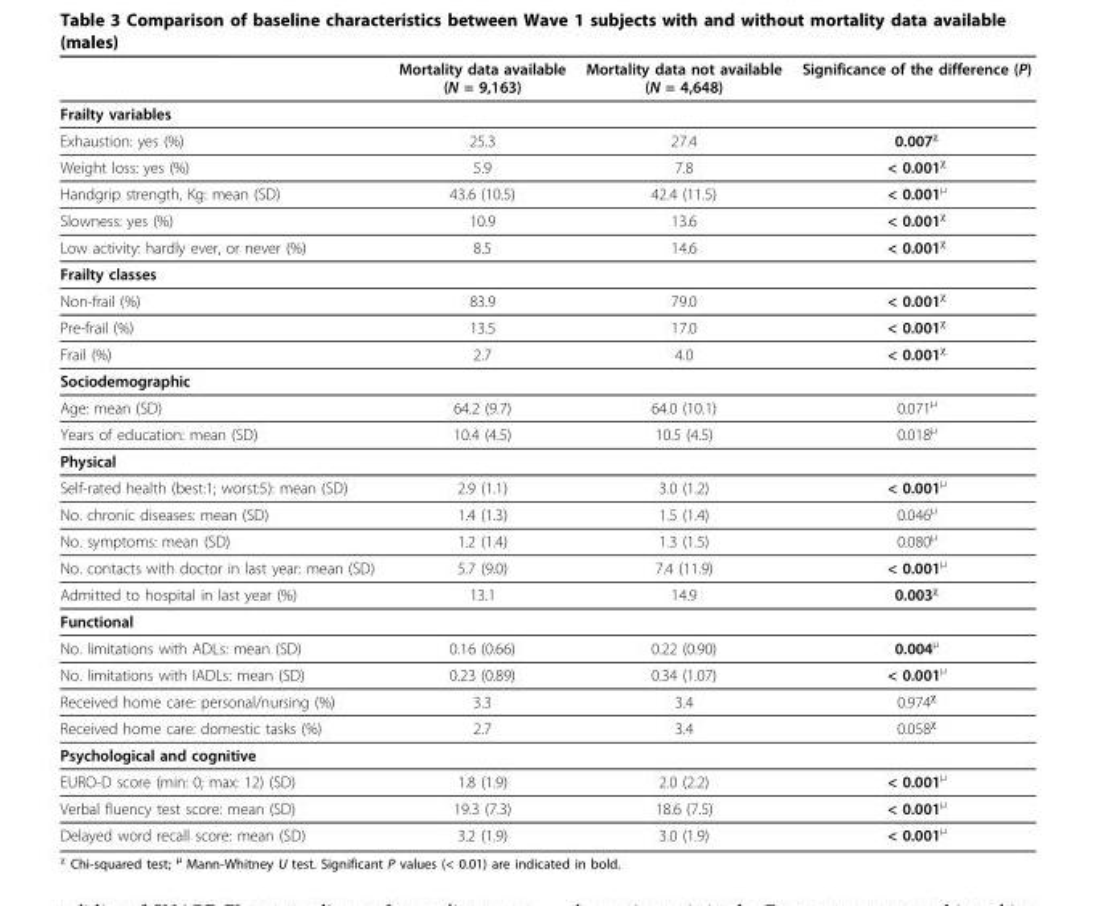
<table><thead><tr><td></td><td>Mortality data available (N = 9,163)</td><td>Mortality data not available (N = 4,648)</td><td>Significance of the difference (P)</td></tr></thead><tbody><tr><td colspan="4">Frailty variables</td></tr><tr><td>Exhaustion: yes (%)</td><td>25.3</td><td>27.4</td><td>0.007χ</td></tr><tr><td>Weight loss: yes (%)</td><td>5.9</td><td>7.8</td><td>&lt; 0.001χ</td></tr><tr><td>Handgrip strength, Kg: mean (SD)</td><td>43.6 (10.5)</td><td>42.4 (11.5)</td><td>&lt; 0.001μ</td></tr><tr><td>Slowness: yes (%)</td><td>10.9</td><td>13.6</td><td>&lt; 0.001χ</td></tr><tr><td>Low activity: hardly ever, or never (%)</td><td>8.5</td><td>14.6</td><td>&lt; 0.001χ</td></tr><tr><td colspan="4">Frailty classes</td></tr><tr><td>Non-frail (%)</td><td>83.9</td><td>79.0</td><td>&lt; 0.001χ</td></tr><tr><td>Pre-frail (%)</td><td>13.5</td><td>17.0</td><td>&lt; 0.001χ</td></tr><tr><td>Frail (%)</td><td>2.7</td><td>4.0</td><td>&lt; 0.001χ</td></tr><tr><td colspan="4">Sociodemographic</td></tr><tr><td>Age: mean (SD)</td><td>64.2 (9.7)</td><td>64.0 (10.1)</td><td>0.071μ</td></tr><tr><td>Years of education: mean (SD)</td><td>10.4 (4.5)</td><td>10.5 (4.5)</td><td>0.018μ</td></tr><tr><td colspan="4">Physical</td></tr><tr><td>Self-rated health (best:1; worst:5): mean (SD)</td><td>2.9 (1.1)</td><td>3.0 (1.2)</td><td>&lt; 0.001μ</td></tr><tr><td>No. chronic diseases: mean (SD)</td><td>1.4 (1.3)</td><td>1.5 (1.4)</td><td>0.046μ</td></tr><tr><td>No. symptoms: mean (SD)</td><td>1.2 (1.4)</td><td>1.3 (1.5)</td><td>0.080μ</td></tr><tr><td>No. contacts with doctor in last year: mean (SD)</td><td>5.7 (9.0)</td><td>7.4 (11.9)</td><td>&lt; 0.001μ</td></tr><tr><td>Admitted to hospital in last year (%)</td><td>13.1</td><td>14.9</td><td>0.003χ</td></tr><tr><td colspan="4">Functional</td></tr><tr><td>No. limitations with ADLs: mean (SD)</td><td>0.16 (0.66)</td><td>0.22 (0.90)</td><td>0.004μ</td></tr><tr><td>No. limitations with IADLs: mean (SD)</td><td>0.23 (0.89)</td><td>0.34 (1.07)</td><td>&lt; 0.001μ</td></tr><tr><td>Received home care: personal/nursing (%)</td><td>3.3</td><td>3.4</td><td>0.974χ</td></tr><tr><td>Received home care: domestic tasks (%)</td><td>2.7</td><td>3.4</td><td>0.058χ</td></tr><tr><td colspan="4">Psychological and cognitive</td></tr><tr><td>EURO-D score (min: 0; max: 12) (SD)</td><td>1.8 (1.9)</td><td>2.0 (2.2)</td><td>&lt; 0.001μ</td></tr><tr><td>Verbal fluency test score: mean (SD)</td><td>19.3 (7.3)</td><td>18.6 (7.5)</td><td>&lt; 0.001μ</td></tr><tr><td>Delayed word recall score: mean (SD)</td><td>3.2 (1.9)</td><td>3.0 (1.9)</td><td>&lt; 0.001μ</td></tr></tbody></table>